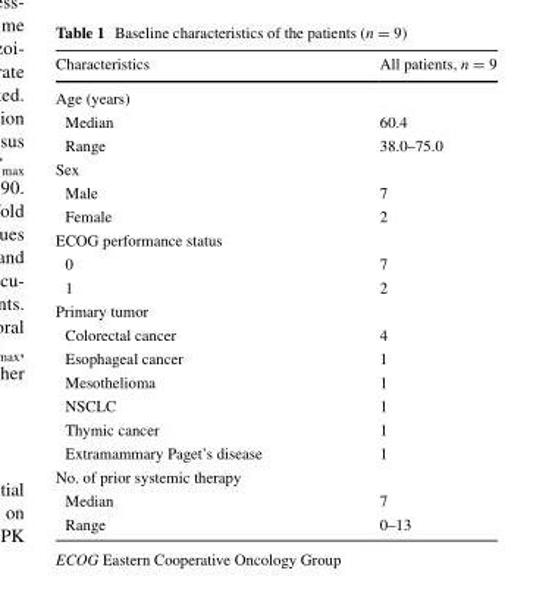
<table><thead><tr><td>Characteristics</td><td>All patients, n = 9</td></tr></thead><tbody><tr><td colspan="2">Age (years)</td></tr><tr><td>Median</td><td>60.4</td></tr><tr><td>Range</td><td>38.0–75.0</td></tr><tr><td colspan="2">Sex</td></tr><tr><td>Male</td><td>7</td></tr><tr><td>Female</td><td>2</td></tr><tr><td colspan="2">ECOG performance status</td></tr><tr><td>0</td><td>7</td></tr><tr><td>1</td><td>2</td></tr><tr><td colspan="2">Primary tumor</td></tr><tr><td>Colorectal cancer</td><td>4</td></tr><tr><td>Esophageal cancer</td><td>1</td></tr><tr><td>Mesothelioma</td><td>1</td></tr><tr><td>NSCLC</td><td>1</td></tr><tr><td>Thymic cancer</td><td>1</td></tr><tr><td>Extramammary Paget’s disease</td><td>1</td></tr><tr><td colspan="2">No. of prior systemic therapy</td></tr><tr><td>Median</td><td>7</td></tr><tr><td>Range</td><td>0–13</td></tr></tbody></table>